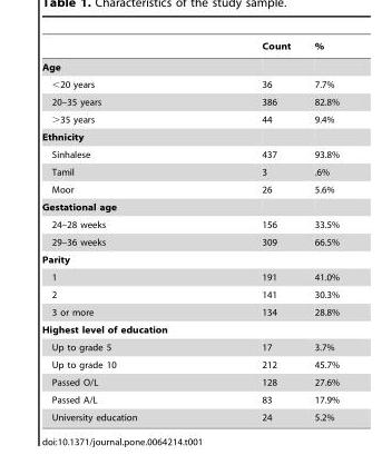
<table><thead><tr><td></td><td>Count</td><td>%</td></tr></thead><tbody><tr><td colspan="3">Age</td></tr><tr><td>&lt;20 years</td><td>36</td><td>7.7%</td></tr><tr><td>20–35 years</td><td>386</td><td>82.8%</td></tr><tr><td>&gt;35 years</td><td>44</td><td>9.4%</td></tr><tr><td colspan="3">Ethnicity</td></tr><tr><td>Sinhalese</td><td>437</td><td>93.8%</td></tr><tr><td>Tamil</td><td>3</td><td>.6%</td></tr><tr><td>Moor</td><td>26</td><td>5.6%</td></tr><tr><td colspan="3">Gestational age</td></tr><tr><td>24–28 weeks</td><td>156</td><td>33.5%</td></tr><tr><td>29–36 weeks</td><td>309</td><td>66.5%</td></tr><tr><td colspan="3">Parity</td></tr><tr><td>1</td><td>191</td><td>41.0%</td></tr><tr><td>2</td><td>141</td><td>30.3%</td></tr><tr><td>3 or more</td><td>134</td><td>28.8%</td></tr><tr><td colspan="3">Highest level of education</td></tr><tr><td>Up to grade 5</td><td>17</td><td>3.7%</td></tr><tr><td>Up to grade 10</td><td>212</td><td>45.7%</td></tr><tr><td>Passed O/L</td><td>128</td><td>27.6%</td></tr><tr><td>Passed A/L</td><td>83</td><td>17.9%</td></tr><tr><td>University education</td><td>24</td><td>5.2%</td></tr></tbody></table>